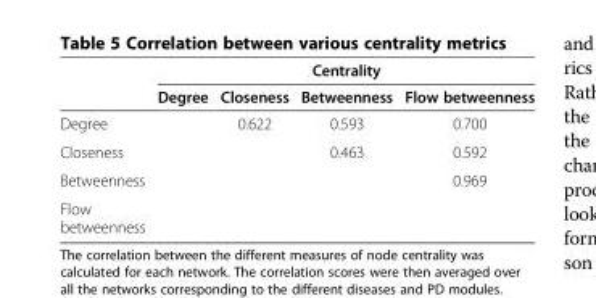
<table><thead><tr><td rowspan="2"></td><td colspan="4">Centrality</td></tr><tr><td>Degree</td><td>Closeness</td><td>Betweenness</td><td>Flow betweenness</td></tr></thead><tbody><tr><td>Degree</td><td></td><td>0.622</td><td>0.593</td><td>0.700</td></tr><tr><td>Closeness</td><td></td><td></td><td>0.463</td><td>0.592</td></tr><tr><td>Betweenness</td><td></td><td></td><td></td><td>0.969</td></tr><tr><td>Flow betweenness</td><td></td><td></td><td></td><td></td></tr></tbody></table>